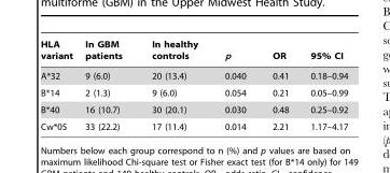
<table><thead><tr><td>HLA variant</td><td>In GBM patients</td><td>In healthy controls</td><td>p</td><td>OR</td><td>95% CI</td></tr></thead><tbody><tr><td>A*32</td><td>9 (6.0)</td><td>20 (13.4)</td><td>0.040</td><td>0.41</td><td>0.18–0.94</td></tr><tr><td>B*14</td><td>2 (1.3)</td><td>9 (6.0)</td><td>0.054</td><td>0.21</td><td>0.05–0.99</td></tr><tr><td>B*40</td><td>16 (10.7)</td><td>30 (20.1)</td><td>0.030</td><td>0.48</td><td>0.25–0.92</td></tr><tr><td>Cw*05</td><td>33 (22.2)</td><td>17 (11.4)</td><td>0.014</td><td>2.21</td><td>1.17–4.17</td></tr></tbody></table>